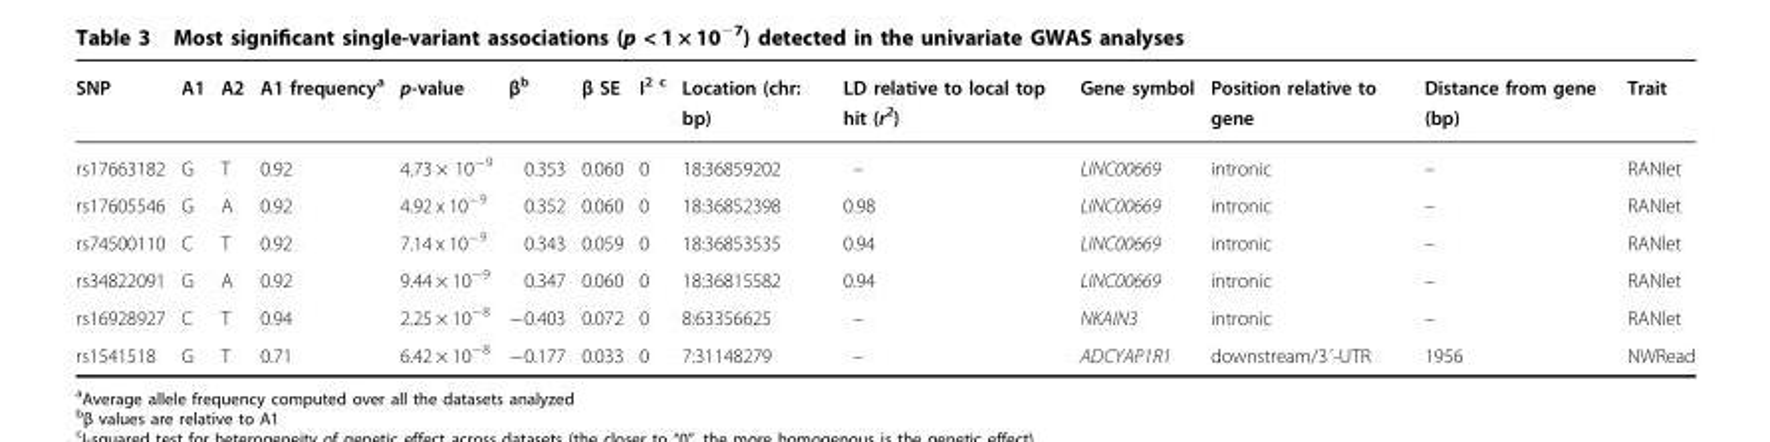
<table><thead><tr><td>SNP</td><td>A1</td><td>A2</td><td>A1 frequency<sup>a</sup></td><td>p-value</td><td>β<sup>b</sup></td><td>β SE</td><td>I<sup>2 c</sup></td><td>Location (chr: bp)</td><td>LD relative to local top hit (r<sup>2</sup>)</td><td>Gene symbol</td><td>Position relative to gene</td><td>Distance from gene (bp)</td><td>Trait</td></tr></thead><tbody><tr><td>rs17663182</td><td>G</td><td>T</td><td>0.92</td><td>4.73 × 10<sup>−9</sup></td><td>0.353</td><td>0.060</td><td>0</td><td>18:36859202</td><td>–</td><td>LINC00669</td><td>intronic</td><td>–</td><td>RANlet</td></tr><tr><td>rs17605546</td><td>G</td><td>A</td><td>0.92</td><td>4.92 x 10<sup>−9</sup></td><td>0.352</td><td>0.060</td><td>0</td><td>18:36852398</td><td>0.98</td><td>LINC00669</td><td>intronic</td><td>–</td><td>RANlet</td></tr><tr><td>rs74500110</td><td>C</td><td>T</td><td>0.92</td><td>7.14 x 10<sup>−9</sup></td><td>0.343</td><td>0.059</td><td>0</td><td>18:36853535</td><td>0.94</td><td>LINC00669</td><td>intronic</td><td>–</td><td>RANlet</td></tr><tr><td>rs34822091</td><td>G</td><td>A</td><td>0.92</td><td>9.44 × 10<sup>−9</sup></td><td>0.347</td><td>0.060</td><td>0</td><td>18:36815582</td><td>0.94</td><td>LINC00669</td><td>intronic</td><td>–</td><td>RANlet</td></tr><tr><td>rs16928927</td><td>C</td><td>T</td><td>0.94</td><td>2.25 × 10<sup>−8</sup></td><td>−0.403</td><td>0.072</td><td>0</td><td>8:63356625</td><td>–</td><td>NKAIN3</td><td>intronic</td><td>–</td><td>RANlet</td></tr><tr><td>rs1541518</td><td>G</td><td>T</td><td>0.71</td><td>6.42 × 10<sup>−8</sup></td><td>−0.177</td><td>0.033</td><td>0</td><td>7:31148279</td><td>–</td><td>ADCYAP1R1</td><td>downstream/3´-UTR</td><td>1956</td><td>NWRead</td></tr></tbody></table>